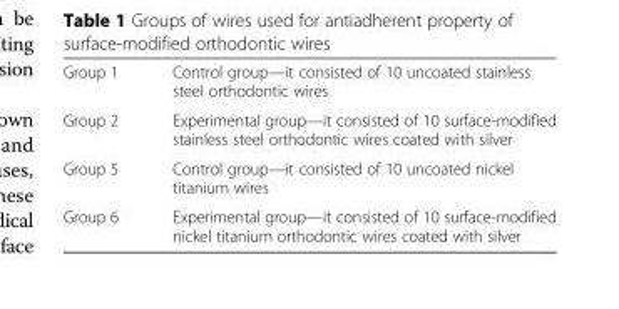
<table><tbody><tr><td>Group 1</td><td>Control group—it consisted of 10 uncoated stainless steel orthodontic wires</td></tr><tr><td>Group 2</td><td>Experimental group—it consisted of 10 surface-modified stainless steel orthodontic wires coated with silver</td></tr><tr><td>Group 5</td><td>Control group—it consisted of 10 uncoated nickel titanium wires</td></tr><tr><td>Group 6</td><td>Experimental group—it consisted of 10 surface-modified nickel titanium orthodontic wires coated with silver</td></tr></tbody></table>